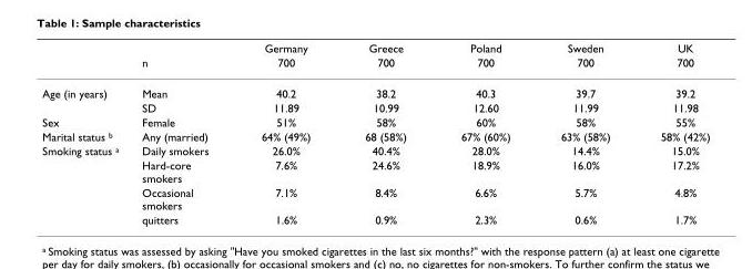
<table><thead><tr><td rowspan="2"></td><td rowspan="2">n</td><td rowspan="2">Germany 700</td><td rowspan="2">Greece 700</td><td rowspan="2">Poland 700</td><td rowspan="2">Sweden 700</td><td rowspan="2">UK 700</td></tr><tr></tr></thead><tbody><tr><td rowspan="2">Age (in years)</td><td>Mean</td><td>40.2</td><td>38.2</td><td>40.3</td><td>39.7</td><td>39.2</td></tr><tr><td>SD</td><td>11.89</td><td>10.99</td><td>12.60</td><td>11.99</td><td>11.98</td></tr><tr><td>Sex</td><td>Female</td><td>51%</td><td>58%</td><td>60%</td><td>58%</td><td>55%</td></tr><tr><td>Marital status <sup>b</sup></td><td>Any (married)</td><td>64% (49%)</td><td>68 (58%)</td><td>67% (60%)</td><td>63% (58%)</td><td>58% (42%)</td></tr><tr><td rowspan="4">Smoking status <sup>a</sup></td><td>Daily smokers</td><td>26.0%</td><td>40.4%</td><td>28.0%</td><td>14.4%</td><td>15.0%</td></tr><tr><td>Hard-core smokers</td><td>7.6%</td><td>24.6%</td><td>18.9%</td><td>16.0%</td><td>17.2%</td></tr><tr><td>Occasional smokers</td><td>7.1%</td><td>8.4%</td><td>6.6%</td><td>5.7%</td><td>4.8%</td></tr><tr><td>quitters</td><td>1.6%</td><td>0.9%</td><td>2.3%</td><td>0.6%</td><td>1.7%</td></tr></tbody></table>